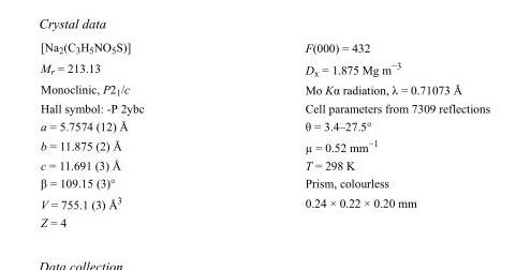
<table><tbody><tr><td>[Na<sub>2</sub>(C<sub>3</sub>H<sub>5</sub>NO<sub>5</sub>S)]</td><td>F(000) = 432</td></tr><tr><td>M<sub>r</sub> = 213.13</td><td>D<sub>x</sub> = 1.875 Mg m<sup>−3</sup></td></tr><tr><td>Monoclinic, P2<sub>1</sub>/c</td><td>Mo Kα radiation, λ = 0.71073 Å</td></tr><tr><td>Hall symbol: -P 2ybc</td><td>Cell parameters from 7309 reflections</td></tr><tr><td>a = 5.7574 (12) Å</td><td>θ = 3.4–27.5°</td></tr><tr><td>b = 11.875 (2) Å</td><td>µ = 0.52 mm<sup>−1</sup></td></tr><tr><td>c = 11.691 (3) Å</td><td>T = 298 K</td></tr><tr><td>β = 109.15 (3)°</td><td>Prism, colourless</td></tr><tr><td>V = 755.1 (3) Å<sup>3</sup></td><td>0.24 × 0.22 × 0.20 mm</td></tr><tr><td>Z = 4</td><td></td></tr></tbody></table>